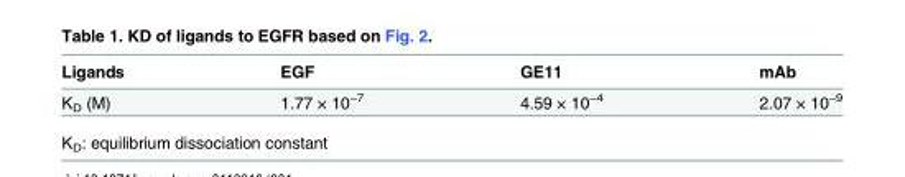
<table><thead><tr><td>Ligands</td><td>EGF</td><td>GE11</td><td>mAb</td></tr></thead><tbody><tr><td>K<sub>D</sub> (M)</td><td>1.77 × 10<sup>−7</sup></td><td>4.59 × 10<sup>−4</sup></td><td>2.07 × 10<sup>−9</sup></td></tr></tbody></table>